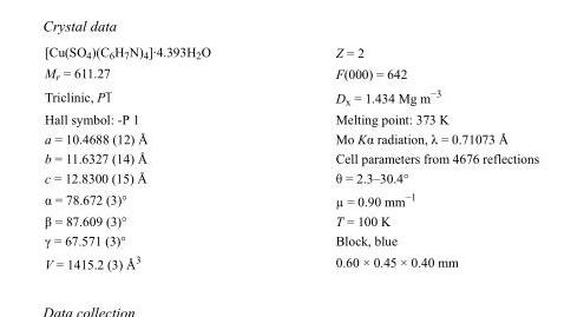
<table><tbody><tr><td>[Cu(SO<sub>4</sub>)(C<sub>6</sub>H<sub>7</sub>N)<sub>4</sub>]·4.393H<sub>2</sub>O</td><td>Z = 2</td></tr><tr><td>M<sub>r</sub> = 611.27</td><td>F(000) = 642</td></tr><tr><td>Triclinic, P1</td><td>D<sub>x</sub> = 1.434 Mg m<sup>−3</sup></td></tr><tr><td>Hall symbol: -P 1</td><td>Melting point: 373 K</td></tr><tr><td>a = 10.4688 (12) Å</td><td>Mo Kα radiation, λ = 0.71073 Å</td></tr><tr><td>b = 11.6327 (14) Å</td><td>Cell parameters from 4676 reflections</td></tr><tr><td>c = 12.8300 (15) Å</td><td>θ = 2.3–30.4°</td></tr><tr><td>α = 78.672 (3)°</td><td>µ = 0.90 mm<sup>−1</sup></td></tr><tr><td>β = 87.609 (3)°</td><td>T = 100 K</td></tr><tr><td>γ = 67.571 (3)°</td><td>Block, blue</td></tr><tr><td>V = 1415.2 (3) Å<sup>3</sup></td><td>0.60 × 0.45 × 0.40 mm</td></tr></tbody></table>